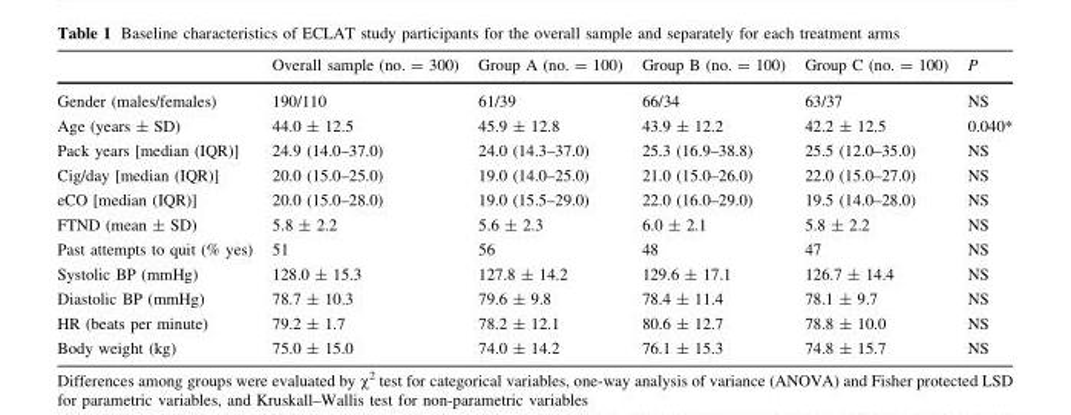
<table><thead><tr><td></td><td>Overall sample (no. = 300)</td><td>Group A (no. = 100)</td><td>Group B (no. = 100)</td><td>Group C (no. = 100)</td><td>P</td></tr></thead><tbody><tr><td>Gender (males/females)</td><td>190/110</td><td>61/39</td><td>66/34</td><td>63/37</td><td>NS</td></tr><tr><td>Age (years ± SD)</td><td>44.0 ± 12.5</td><td>45.9 ± 12.8</td><td>43.9 ± 12.2</td><td>42.2 ± 12.5</td><td>0.040*</td></tr><tr><td>Pack years [median (IQR)]</td><td>24.9 (14.0–37.0)</td><td>24.0 (14.3–37.0)</td><td>25.3 (16.9–38.8)</td><td>25.5 (12.0–35.0)</td><td>NS</td></tr><tr><td>Cig/day [median (IQR)]</td><td>20.0 (15.0–25.0)</td><td>19.0 (14.0–25.0)</td><td>21.0 (15.0–26.0)</td><td>22.0 (15.0–27.0)</td><td>NS</td></tr><tr><td>eCO [median (IQR)]</td><td>20.0 (15.0–28.0)</td><td>19.0 (15.5–29.0)</td><td>22.0 (16.0–29.0)</td><td>19.5 (14.0–28.0)</td><td>NS</td></tr><tr><td>FTND (mean ± SD)</td><td>5.8 ± 2.2</td><td>5.6 ± 2.3</td><td>6.0 ± 2.1</td><td>5.8 ± 2.2</td><td>NS</td></tr><tr><td>Past attempts to quit (% yes)</td><td>51</td><td>56</td><td>48</td><td>47</td><td>NS</td></tr><tr><td>Systolic BP (mmHg)</td><td>128.0 ± 15.3</td><td>127.8 ± 14.2</td><td>129.6 ± 17.1</td><td>126.7 ± 14.4</td><td>NS</td></tr><tr><td>Diastolic BP (mmHg)</td><td>78.7 ± 10.3</td><td>79.6 ± 9.8</td><td>78.4 ± 11.4</td><td>78.1 ± 9.7</td><td>NS</td></tr><tr><td>HR (beats per minute)</td><td>79.2 ± 1.7</td><td>78.2 ± 12.1</td><td>80.6 ± 12.7</td><td>78.8 ± 10.0</td><td>NS</td></tr><tr><td>Body weight (kg)</td><td>75.0 ± 15.0</td><td>74.0 ± 14.2</td><td>76.1 ± 15.3</td><td>74.8 ± 15.7</td><td>NS</td></tr></tbody></table>